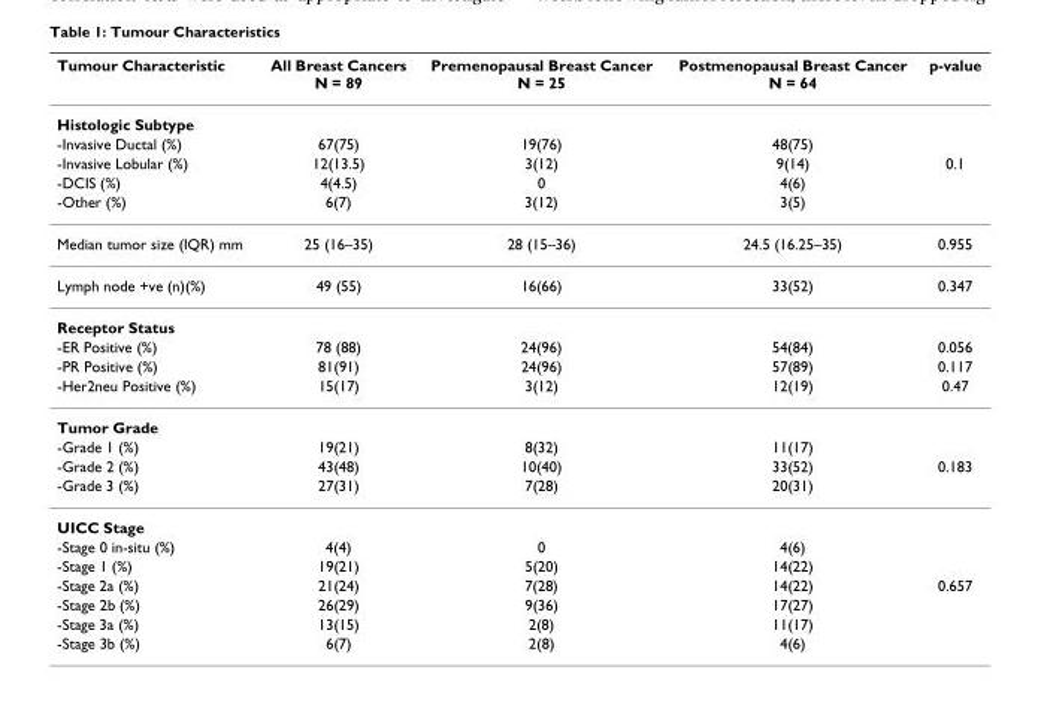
<table><thead><tr><td>Tumour Characteristic</td><td>All Breast Cancers N = 89</td><td>Premenopausal Breast Cancer N = 25</td><td>Postmenopausal Breast Cancer N = 64</td><td>p-value</td></tr></thead><tbody><tr><td colspan="5">Histologic Subtype</td></tr><tr><td>-Invasive Ductal (%)</td><td>67(75)</td><td>19(76)</td><td>48(75)</td><td></td></tr><tr><td>-Invasive Lobular (%)</td><td>12(13.5)</td><td>3(12)</td><td>9(14)</td><td>0.1</td></tr><tr><td>-DCIS (%)</td><td>4(4.5)</td><td>0</td><td>4(6)</td><td></td></tr><tr><td>-Other (%)</td><td>6(7)</td><td>3(12)</td><td>3(5)</td><td></td></tr><tr><td>Median tumor size (IQR) mm</td><td>25 (16–35)</td><td>28 (15–36)</td><td>24.5 (16.25–35)</td><td>0.955</td></tr><tr><td>Lymph node +ve (n)(%)</td><td>49 (55)</td><td>16(66)</td><td>33(52)</td><td>0.347</td></tr><tr><td colspan="5">Receptor Status</td></tr><tr><td>-ER Positive (%)</td><td>78 (88)</td><td>24(96)</td><td>54(84)</td><td>0.056</td></tr><tr><td>-PR Positive (%)</td><td>81(91)</td><td>24(96)</td><td>57(89)</td><td>0.117</td></tr><tr><td>-Her2neu Positive (%)</td><td>15(17)</td><td>3(12)</td><td>12(19)</td><td>0.47</td></tr><tr><td colspan="5">Tumor Grade</td></tr><tr><td>-Grade 1 (%)</td><td>19(21)</td><td>8(32)</td><td>11(17)</td><td></td></tr><tr><td>-Grade 2 (%)</td><td>43(48)</td><td>10(40)</td><td>33(52)</td><td>0.183</td></tr><tr><td>-Grade 3 (%)</td><td>27(31)</td><td>7(28)</td><td>20(31)</td><td></td></tr><tr><td colspan="5">UICC Stage</td></tr><tr><td>-Stage 0 in-situ (%)</td><td>4(4)</td><td>0</td><td>4(6)</td><td></td></tr><tr><td>-Stage 1 (%)</td><td>19(21)</td><td>5(20)</td><td>14(22)</td><td></td></tr><tr><td>-Stage 2a (%)</td><td>21(24)</td><td>7(28)</td><td>14(22)</td><td>0.657</td></tr><tr><td>-Stage 2b (%)</td><td>26(29)</td><td>9(36)</td><td>17(27)</td><td></td></tr><tr><td>-Stage 3a (%)</td><td>13(15)</td><td>2(8)</td><td>11(17)</td><td></td></tr><tr><td>-Stage 3b (%)</td><td>6(7)</td><td>2(8)</td><td>4(6)</td><td></td></tr></tbody></table>